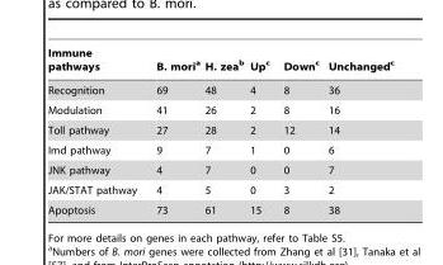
<table><thead><tr><td>Immune pathways</td><td>B. mori<sup>a</sup></td><td>H. zea<sup>b</sup></td><td>Up<sup>c</sup></td><td>Down<sup>c</sup></td><td>Unchanged<sup>c</sup></td></tr></thead><tbody><tr><td>Recognition</td><td>69</td><td>48</td><td>4</td><td>8</td><td>36</td></tr><tr><td>Modulation</td><td>41</td><td>26</td><td>2</td><td>8</td><td>16</td></tr><tr><td>Toll pathway</td><td>27</td><td>28</td><td>2</td><td>12</td><td>14</td></tr><tr><td>Imd pathway</td><td>9</td><td>7</td><td>1</td><td>0</td><td>6</td></tr><tr><td>JNK pathway</td><td>4</td><td>7</td><td>0</td><td>0</td><td>7</td></tr><tr><td>JAK/STAT pathway</td><td>4</td><td>5</td><td>0</td><td>3</td><td>2</td></tr><tr><td>Apoptosis</td><td>73</td><td>61</td><td>15</td><td>8</td><td>38</td></tr></tbody></table>